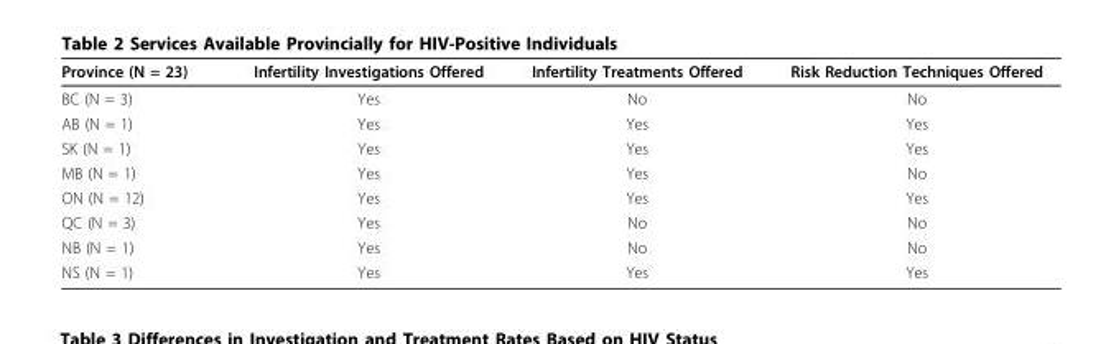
<table><thead><tr><td>Province (N = 23)</td><td>Infertility Investigations Offered</td><td>Infertility Treatments Offered</td><td>Risk Reduction Techniques Offered</td></tr></thead><tbody><tr><td>BC (N = 3)</td><td>Yes</td><td>No</td><td>No</td></tr><tr><td>AB (N = 1)</td><td>Yes</td><td>Yes</td><td>Yes</td></tr><tr><td>SK (N = 1)</td><td>Yes</td><td>Yes</td><td>Yes</td></tr><tr><td>MB (N = 1)</td><td>Yes</td><td>Yes</td><td>No</td></tr><tr><td>ON (N = 12)</td><td>Yes</td><td>Yes</td><td>Yes</td></tr><tr><td>QC (N = 3)</td><td>Yes</td><td>No</td><td>No</td></tr><tr><td>NB (N = 1)</td><td>Yes</td><td>No</td><td>No</td></tr><tr><td>NS (N = 1)</td><td>Yes</td><td>Yes</td><td>Yes</td></tr></tbody></table>